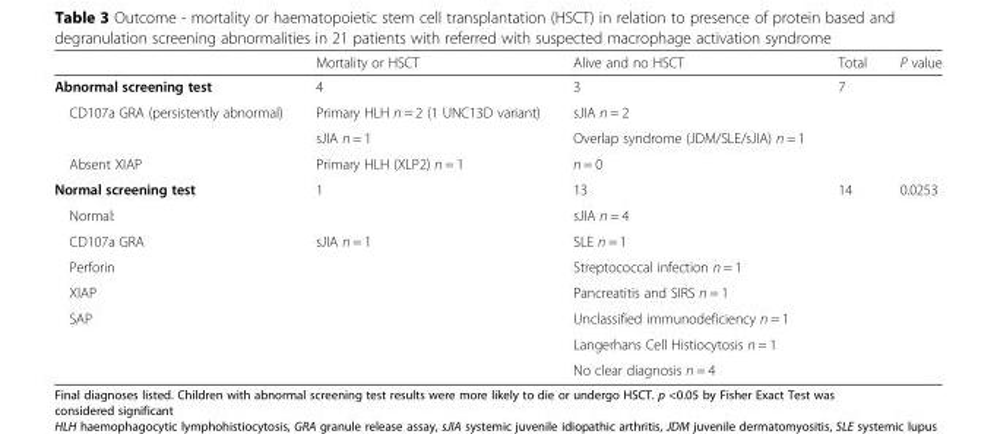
<table><thead><tr><td></td><td>Mortality or HSCT</td><td>Alive and no HSCT</td><td>Total</td><td>P value</td></tr></thead><tbody><tr><td>Abnormal screening test</td><td>4</td><td>3</td><td rowspan="4">7</td><td rowspan="4"></td></tr><tr><td rowspan="2">CD107a GRA (persistently abnormal)</td><td>Primary HLH n = 2 (1 UNC13D variant)</td><td>sJIA n = 2</td></tr><tr><td>sJIA n = 1</td><td>Overlap syndrome (JDM/SLE/sJIA) n = 1</td></tr><tr><td>Absent XIAP</td><td>Primary HLH (XLP2) n = 1</td><td>n = 0</td></tr><tr><td>Normal screening test</td><td>1</td><td>13</td><td>14</td><td>0.0253</td></tr><tr><td>Normal:</td><td></td><td>sJIA n = 4</td><td rowspan="7"></td><td rowspan="7"></td></tr><tr><td>CD107a GRA</td><td rowspan="6">sJIA n = 1</td><td>SLE n = 1</td></tr><tr><td>Perforin</td><td>Streptococcal infection n = 1</td></tr><tr><td>XIAP</td><td>Pancreatitis and SIRS n = 1</td></tr><tr><td rowspan="3">SAP</td><td>Unclassified immunodeficiency n = 1</td></tr><tr><td>Langerhans Cell Histiocytosis n = 1</td></tr><tr><td>No clear diagnosis n = 4</td></tr></tbody></table>